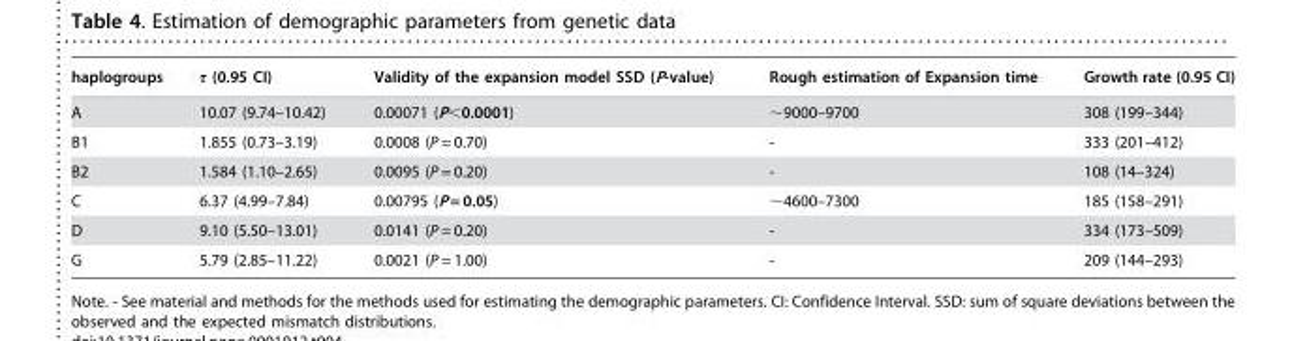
<table><thead><tr><td>haplogroups</td><td>τ (0.95 CI)</td><td>Validity of the expansion model SSD (P-value)</td><td>Rough estimation of Expansion time</td><td>Growth rate (0.95 CI)</td></tr></thead><tbody><tr><td>A</td><td>10.07 (9.74–10.42)</td><td>0.00071 (P&lt;0.0001)</td><td>∼9000–9700</td><td>308 (199–344)</td></tr><tr><td>B1</td><td>1.855 (0.73–3.19)</td><td>0.0008 (P = 0.70)</td><td>-</td><td>333 (201–412)</td></tr><tr><td>B2</td><td>1.584 (1.10–2.65)</td><td>0.0095 (P = 0.20)</td><td>-</td><td>108 (14–324)</td></tr><tr><td>C</td><td>6.37 (4.99–7.84)</td><td>0.00795 (P = 0.05)</td><td>∼4600–7300</td><td>185 (158–291)</td></tr><tr><td>D</td><td>9.10 (5.50–13.01)</td><td>0.0141 (P = 0.20)</td><td>-</td><td>334 (173–509)</td></tr><tr><td>G</td><td>5.79 (2.85–11.22)</td><td>0.0021 (P = 1.00)</td><td>-</td><td>209 (144–293)</td></tr></tbody></table>